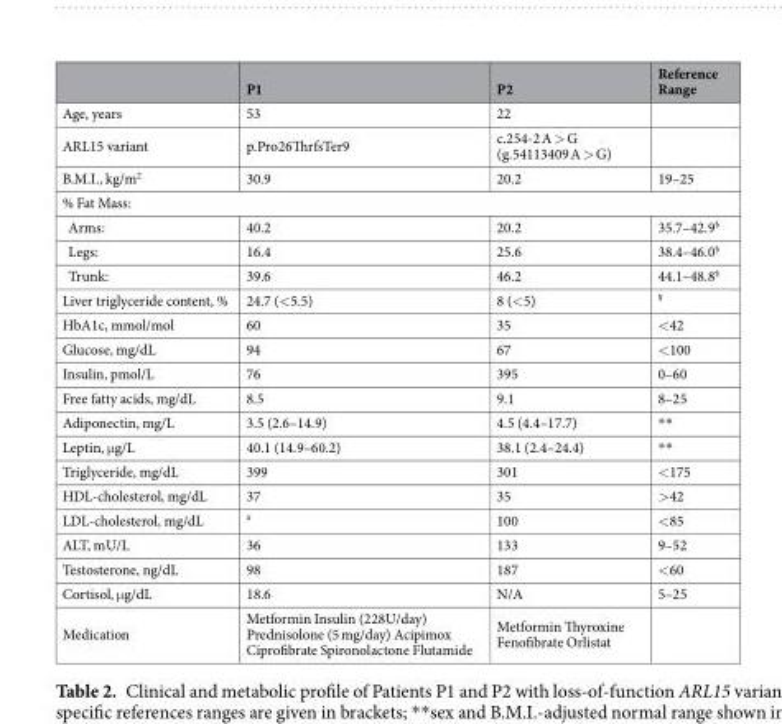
<table><thead><tr><td></td><td>P1</td><td>P2</td><td>Reference Range</td></tr></thead><tbody><tr><td>Age, years</td><td>53</td><td>22</td><td></td></tr><tr><td>ARL15 variant</td><td>p.Pro26ThrfsTer9</td><td>c.254-2 A &gt; G (g.54113409 A &gt; G)</td><td></td></tr><tr><td>B.M.I., kg/m<sup>2</sup></td><td>30.9</td><td>20.2</td><td>19–25</td></tr><tr><td colspan="4">% Fat Mass:</td></tr><tr><td>Arms:</td><td>40.2</td><td>20.2</td><td>35.7–42.9<sup>§</sup></td></tr><tr><td>Legs:</td><td>16.4</td><td>25.6</td><td>38.4–46.0<sup>§</sup></td></tr><tr><td>Trunk:</td><td>39.6</td><td>46.2</td><td>44.1–48.8<sup>§</sup></td></tr><tr><td>Liver triglyceride content, %</td><td>24.7 (&lt;5.5)</td><td>8 (&lt;5)</td><td><sup>¥</sup></td></tr><tr><td>HbA1c, mmol/mol</td><td>60</td><td>35</td><td>&lt;42</td></tr><tr><td>Glucose, mg/dL</td><td>94</td><td>67</td><td>&lt;100</td></tr><tr><td>Insulin, pmol/L</td><td>76</td><td>395</td><td>0–60</td></tr><tr><td>Free fatty acids, mg/dL</td><td>8.5</td><td>9.1</td><td>8–25</td></tr><tr><td>Adiponectin, mg/L</td><td>3.5 (2.6–14.9)</td><td>4.5 (4.4–17.7)</td><td>**</td></tr><tr><td>Leptin, μg/L</td><td>40.1 (14.9–60.2)</td><td>38.1 (2.4–24.4)</td><td>**</td></tr><tr><td>Triglyceride, mg/dL</td><td>399</td><td>301</td><td>&lt;175</td></tr><tr><td>HDL-cholesterol, mg/dL</td><td>37</td><td>35</td><td>&gt;42</td></tr><tr><td>LDL-cholesterol, mg/dL</td><td><sup>#</sup></td><td>100</td><td>&lt;85</td></tr><tr><td>ALT, mU/L</td><td>36</td><td>133</td><td>9–52</td></tr><tr><td>Testosterone, ng/dL</td><td>98</td><td>187</td><td>&lt;60</td></tr><tr><td>Cortisol, μg/dL</td><td>18.6</td><td>N/A</td><td>5–25</td></tr><tr><td>Medication</td><td>Metformin Insulin (228U/day) Prednisolone (5 mg/day) Acipimox Ciprofibrate Spironolactone Flutamide</td><td>Metformin Thyroxine Fenofibrate Orlistat</td><td></td></tr></tbody></table>